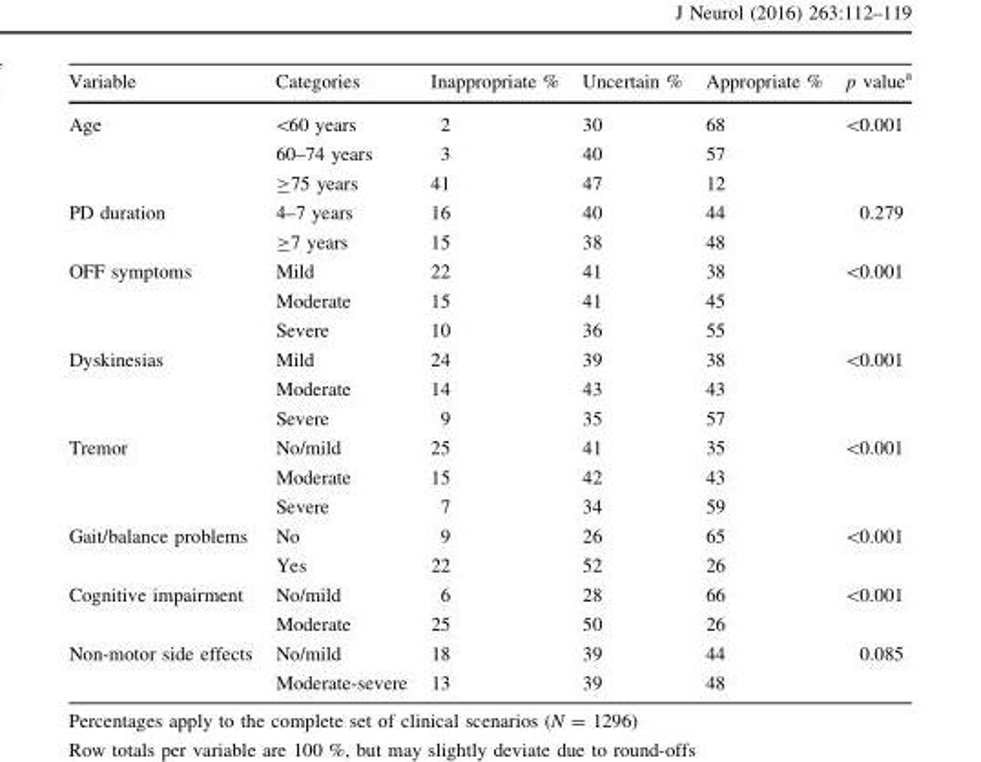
<table><thead><tr><td>Variable</td><td>Categories</td><td>Inappropriate %</td><td>Uncertain %</td><td>Appropriate %</td><td>p value<sup>a</sup></td></tr></thead><tbody><tr><td rowspan="3">Age</td><td>&lt;60 years</td><td>2</td><td>30</td><td>68</td><td rowspan="3">&lt;0.001</td></tr><tr><td>60–74 years</td><td>3</td><td>40</td><td>57</td></tr><tr><td>≥75 years</td><td>41</td><td>47</td><td>12</td></tr><tr><td rowspan="2">PD duration</td><td>4–7 years</td><td>16</td><td>40</td><td>44</td><td rowspan="2">0.279</td></tr><tr><td>≥7 years</td><td>15</td><td>38</td><td>48</td></tr><tr><td rowspan="3">OFF symptoms</td><td>Mild</td><td>22</td><td>41</td><td>38</td><td rowspan="3">&lt;0.001</td></tr><tr><td>Moderate</td><td>15</td><td>41</td><td>45</td></tr><tr><td>Severe</td><td>10</td><td>36</td><td>55</td></tr><tr><td rowspan="3">Dyskinesias</td><td>Mild</td><td>24</td><td>39</td><td>38</td><td rowspan="3">&lt;0.001</td></tr><tr><td>Moderate</td><td>14</td><td>43</td><td>43</td></tr><tr><td>Severe</td><td>9</td><td>35</td><td>57</td></tr><tr><td rowspan="3">Tremor</td><td>No/mild</td><td>25</td><td>41</td><td>35</td><td rowspan="3">&lt;0.001</td></tr><tr><td>Moderate</td><td>15</td><td>42</td><td>43</td></tr><tr><td>Severe</td><td>7</td><td>34</td><td>59</td></tr><tr><td rowspan="2">Gait/balance problems</td><td>No</td><td>9</td><td>26</td><td>65</td><td rowspan="2">&lt;0.001</td></tr><tr><td>Yes</td><td>22</td><td>52</td><td>26</td></tr><tr><td rowspan="2">Cognitive impairment</td><td>No/mild</td><td>6</td><td>28</td><td>66</td><td rowspan="2">&lt;0.001</td></tr><tr><td>Moderate</td><td>25</td><td>50</td><td>26</td></tr><tr><td rowspan="2">Non-motor side effects</td><td>No/mild</td><td>18</td><td>39</td><td>44</td><td rowspan="2">0.085</td></tr><tr><td>Moderate-severe</td><td>13</td><td>39</td><td>48</td></tr></tbody></table>